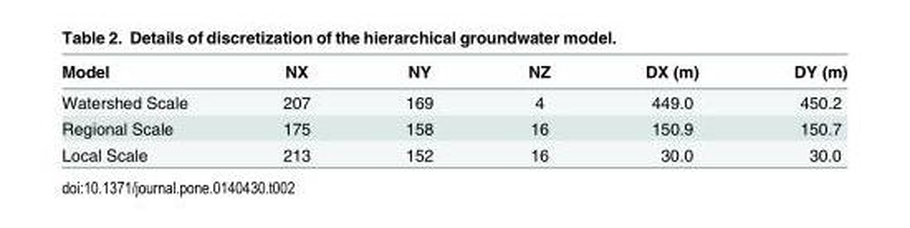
<table><thead><tr><td>Model</td><td>NX</td><td>NY</td><td>NZ</td><td>DX (m)</td><td>DY (m)</td></tr></thead><tbody><tr><td>Watershed Scale</td><td>207</td><td>169</td><td>4</td><td>449.0</td><td>450.2</td></tr><tr><td>Regional Scale</td><td>175</td><td>158</td><td>16</td><td>150.9</td><td>150.7</td></tr><tr><td>Local Scale</td><td>213</td><td>152</td><td>16</td><td>30.0</td><td>30.0</td></tr></tbody></table>